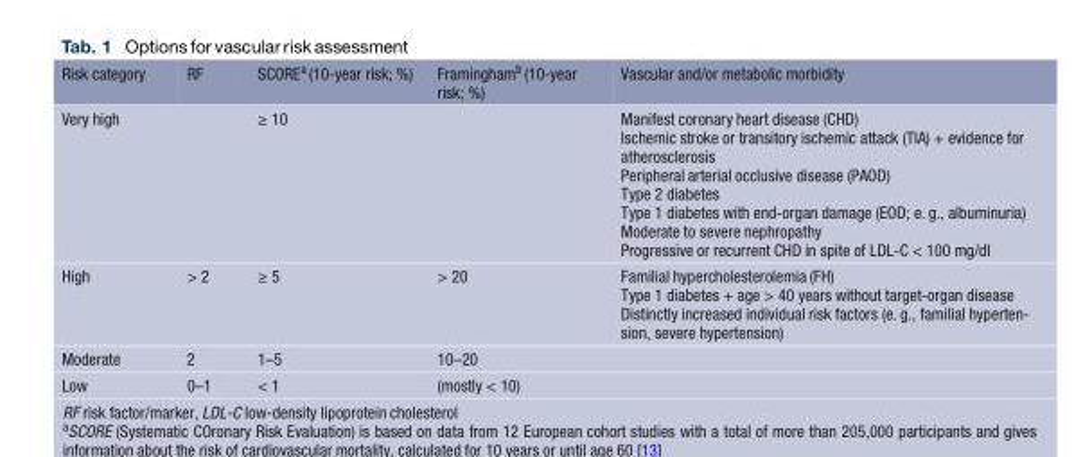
<table><thead><tr><td>Risk category</td><td>RF</td><td>SCORE<sup>a</sup> (10-year risk; %)</td><td>Framingham<sup>b</sup>(10-year risk; %)</td><td>Vascular and/or metabolic morbidity</td></tr></thead><tbody><tr><td>Very high</td><td></td><td>≥ 10</td><td></td><td>Manifest coronary heart disease (CHD) Ischemic stroke or transitory ischemic attack (TIA) + evidence for atherosclerosis Peripheral arterial occlusive disease (PAOD) Type 2 diabetes Type 1 diabetes with end-organ damage (EOD; e. g., albuminuria) Moderate to severe nephropathy Progressive or recurrent CHD in spite of LDL-C &lt; 100 mg/dl</td></tr><tr><td>High</td><td>&gt; 2</td><td>≥ 5</td><td>&gt; 20</td><td>Familial hypercholesterolemia (FH) Type 1 diabetes + age &gt; 40 years without target-organ disease Distinctly increased individual risk factors (e. g., familial hyperten- sion, severe hypertension)</td></tr><tr><td>Moderate</td><td>2</td><td>1–5</td><td>10–20</td><td></td></tr><tr><td>Low</td><td>0–1</td><td>&lt; 1</td><td>(mostly &lt; 10)</td><td></td></tr></tbody></table>